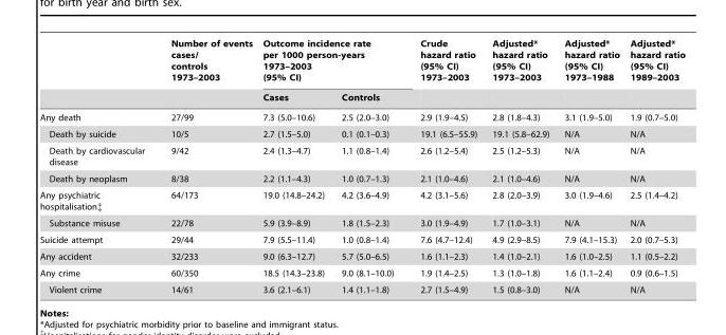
<table><thead><tr><td rowspan="2"></td><td rowspan="2">Number of events cases/ controls 1973–2003</td><td colspan="2">Outcome incidence rate per 1000 person-years 1973–2003 (95% CI)</td><td rowspan="2">Crude hazard ratio (95% CI) 1973–2003</td><td rowspan="2">Adjusted* hazard ratio (95% CI) 1973–2003</td><td rowspan="2">Adjusted* hazard ratio (95% CI) 1973–1988</td><td rowspan="2">Adjusted* hazard ratio (95% CI) 1989–2003</td></tr><tr><td>Cases</td><td>Controls</td></tr></thead><tbody><tr><td>Any death</td><td>27/99</td><td>7.3 (5.0–10.6)</td><td>2.5 (2.0–3.0)</td><td>2.9 (1.9–4.5)</td><td>2.8 (1.8–4.3)</td><td>3.1 (1.9–5.0)</td><td>1.9 (0.7–5.0)</td></tr><tr><td>Death by suicide</td><td>10/5</td><td>2.7 (1.5–5.0)</td><td>0.1 (0.1–0.3)</td><td>19.1 (6.5–55.9)</td><td>19.1 (5.8–62.9)</td><td>N/A</td><td>N/A</td></tr><tr><td>Death by cardiovascular disease</td><td>9/42</td><td>2.4 (1.3–4.7)</td><td>1.1 (0.8–1.4)</td><td>2.6 (1.2–5.4)</td><td>2.5 (1.2–5.3)</td><td>N/A</td><td>N/A</td></tr><tr><td>Death by neoplasm</td><td>8/38</td><td>2.2 (1.1–4.3)</td><td>1.0 (0.7–1.3)</td><td>2.1 (1.0–4.6)</td><td>2.1 (1.0–4.6)</td><td>N/A</td><td>N/A</td></tr><tr><td>Any psychiatric hospitalisation‡</td><td>64/173</td><td>19.0 (14.8–24.2)</td><td>4.2 (3.6–4.9)</td><td>4.2 (3.1–5.6)</td><td>2.8 (2.0–3.9)</td><td>3.0 (1.9–4.6)</td><td>2.5 (1.4–4.2)</td></tr><tr><td>Substance misuse</td><td>22/78</td><td>5.9 (3.9–8.9)</td><td>1.8 (1.5–2.3)</td><td>3.0 (1.9–4.9)</td><td>1.7 (1.0–3.1)</td><td>N/A</td><td>N/A</td></tr><tr><td>Suicide attempt</td><td>29/44</td><td>7.9 (5.5–11.4)</td><td>1.0 (0.8–1.4)</td><td>7.6 (4.7–12.4)</td><td>4.9 (2.9–8.5)</td><td>7.9 (4.1–15.3)</td><td>2.0 (0.7–5.3)</td></tr><tr><td>Any accident</td><td>32/233</td><td>9.0 (6.3–12.7)</td><td>5.7 (5.0–6.5)</td><td>1.6 (1.1–2.3)</td><td>1.4 (1.0–2.1)</td><td>1.6 (1.0–2.5)</td><td>1.1 (0.5–2.2)</td></tr><tr><td>Any crime</td><td>60/350</td><td>18.5 (14.3–23.8)</td><td>9.0 (8.1–10.0)</td><td>1.9 (1.4–2.5)</td><td>1.3 (1.0–1.8)</td><td>1.6 (1.1–2.4)</td><td>0.9 (0.6–1.5)</td></tr><tr><td>Violent crime</td><td>14/61</td><td>3.6 (2.1–6.1)</td><td>1.4 (1.1–1.8)</td><td>2.7 (1.5–4.9)</td><td>1.5 (0.8–3.0)</td><td>N/A</td><td>N/A</td></tr></tbody></table>